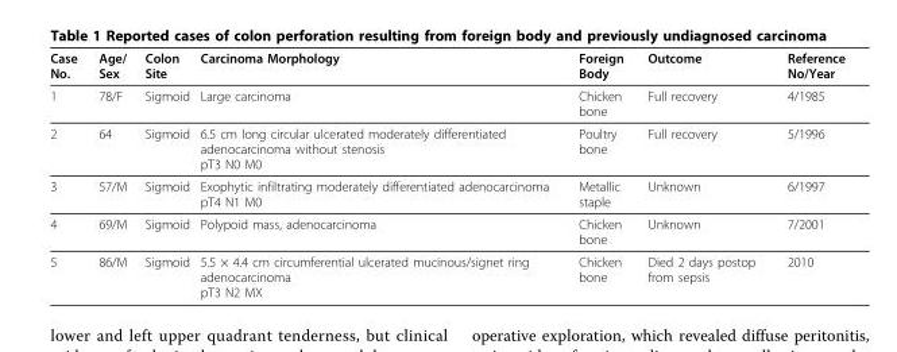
<table><thead><tr><td>Case No.</td><td>Age/ Sex</td><td>Colon Site</td><td>Carcinoma Morphology</td><td>Foreign Body</td><td>Outcome</td><td>Reference No/Year</td></tr></thead><tbody><tr><td>1</td><td>78/F</td><td>Sigmoid</td><td>Large carcinoma</td><td>Chicken bone</td><td>Full recovery</td><td>4/1985</td></tr><tr><td>2</td><td>64</td><td>Sigmoid</td><td>6.5 cm long circular ulcerated moderately differentiated adenocarcinoma without stenosis pT3 N0 M0</td><td>Poultry bone</td><td>Full recovery</td><td>5/1996</td></tr><tr><td>3</td><td>57/M</td><td>Sigmoid</td><td>Exophytic infiltrating moderately differentiated adenocarcinoma pT4 N1 M0</td><td>Metallic staple</td><td>Unknown</td><td>6/1997</td></tr><tr><td>4</td><td>69/M</td><td>Sigmoid</td><td>Polypoid mass, adenocarcinoma</td><td>Chicken bone</td><td>Unknown</td><td>7/2001</td></tr><tr><td>5</td><td>86/M</td><td>Sigmoid</td><td>5.5 × 4.4 cm circumferential ulcerated mucinous/signet ring adenocarcinoma pT3 N2 MX</td><td>Chicken bone</td><td>Died 2 days postop from sepsis</td><td>2010</td></tr></tbody></table>